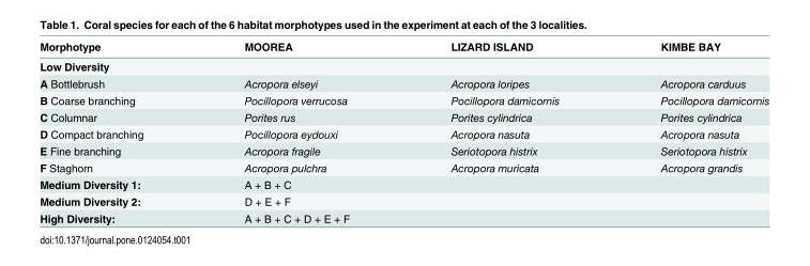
<table><thead><tr><td>Morphotype</td><td>MOOREA</td><td>LIZARD ISLAND</td><td>KIMBE BAY</td></tr></thead><tbody><tr><td colspan="4">Low Diversity</td></tr><tr><td>A Bottlebrush</td><td>Acropora elseyi</td><td>Acropora loripes</td><td>Acropora carduus</td></tr><tr><td>B Coarse branching</td><td>Pocillopora verrucosa</td><td>Pocillopora damicornis</td><td>Pocillopora damicornis</td></tr><tr><td>C Columnar</td><td>Porites rus</td><td>Porites cylindrica</td><td>Porites cylindrica</td></tr><tr><td>D Compact branching</td><td>Pocillopora eydouxi</td><td>Acropora nasuta</td><td>Acropora nasuta</td></tr><tr><td>E Fine branching</td><td>Acropora fragile</td><td>Seriotopora histrix</td><td>Seriotopora histrix</td></tr><tr><td>F Staghorn</td><td>Acropora pulchra</td><td>Acropora muricata</td><td>Acropora grandis</td></tr><tr><td>Medium Diversity 1:</td><td>A + B + C</td><td></td><td></td></tr><tr><td>Medium Diversity 2:</td><td>D + E + F</td><td></td><td></td></tr><tr><td>High Diversity:</td><td>A + B + C + D + E + F</td><td></td><td></td></tr></tbody></table>